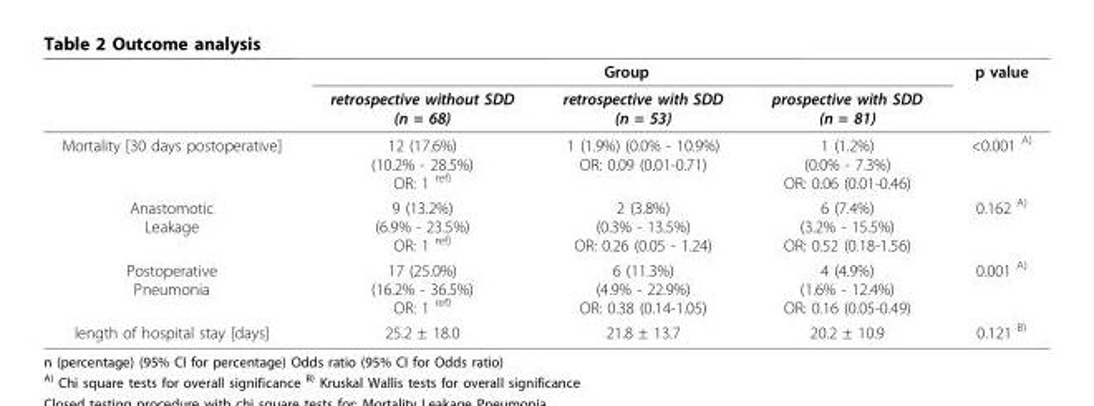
<table><thead><tr><td rowspan="2"></td><td colspan="3">Group</td><td rowspan="2">p value</td></tr><tr><td>retrospective without SDD (n = 68)</td><td>retrospective with SDD (n = 53)</td><td>prospective with SDD (n = 81)</td></tr></thead><tbody><tr><td>Mortality [30 days postoperative]</td><td>12 (17.6%) (10.2% - 28.5%) OR: 1 <sup>ref)</sup></td><td>1 (1.9%) (0.0% - 10.9%) OR: 0.09 (0.01-0.71)</td><td>1 (1.2%) (0.0% - 7.3%) OR: 0.06 (0.01-0.46)</td><td>&lt;0.001 <sup>A)</sup></td></tr><tr><td>Anastomotic Leakage</td><td>9 (13.2%) (6.9% - 23.5%) OR: 1 <sup>ref)</sup></td><td>2 (3.8%) (0.3% - 13.5%) OR: 0.26 (0.05 - 1.24)</td><td>6 (7.4%) (3.2% - 15.5%) OR: 0.52 (0.18-1.56)</td><td>0.162 <sup>A)</sup></td></tr><tr><td>Postoperative Pneumonia</td><td>17 (25.0%) (16.2% - 36.5%) OR: 1 <sup>ref)</sup></td><td>6 (11.3%) (4.9% - 22.9%) OR: 0.38 (0.14-1.05)</td><td>4 (4.9%) (1.6% - 12.4%) OR: 0.16 (0.05-0.49)</td><td>0.001 <sup>A)</sup></td></tr><tr><td>length of hospital stay [days]</td><td>25.2 ± 18.0</td><td>21.8 ± 13.7</td><td>20.2 ± 10.9</td><td>0.121 <sup>B)</sup></td></tr></tbody></table>